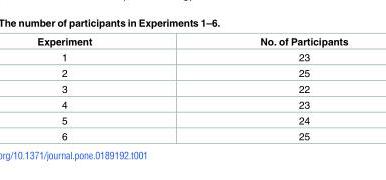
<table><thead><tr><td>Experiment</td><td>No. of Participants</td></tr></thead><tbody><tr><td>1</td><td>23</td></tr><tr><td>2</td><td>25</td></tr><tr><td>3</td><td>22</td></tr><tr><td>4</td><td>23</td></tr><tr><td>5</td><td>24</td></tr><tr><td>6</td><td>25</td></tr></tbody></table>